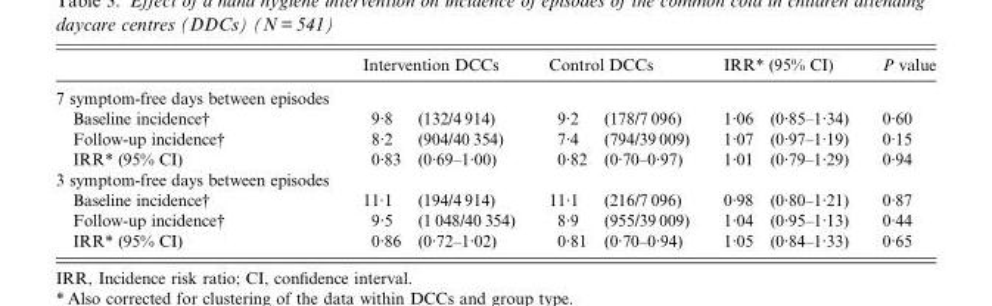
<table><thead><tr><td rowspan="2">7 symptom-free days between episodes</td><td colspan="2">Intervention DCCs</td><td colspan="2">Control DCCs</td><td colspan="2">IRR* (95% CI)</td><td rowspan="2">P value</td></tr><tr><td></td><td></td><td></td><td></td><td></td><td></td></tr></thead><tbody><tr><td>Baseline incidence†</td><td>9·8</td><td>(132/4 914)</td><td>9·2</td><td>(178/7 096)</td><td>1·06</td><td>(0·85–1·34)</td><td>0·60</td></tr><tr><td>Follow-up incidence†</td><td>8·2</td><td>(904/40 354)</td><td>7·4</td><td>(794/39 009)</td><td>1·07</td><td>(0·97–1·19)</td><td>0·15</td></tr><tr><td>IRR* (95% CI)</td><td>0·83</td><td>(0·69–1·00)</td><td>0·82</td><td>(0·70–0·97)</td><td>1·01</td><td>(0·79–1·29)</td><td>0·94</td></tr><tr><td colspan="8">3 symptom-free days between episodes</td></tr><tr><td>Baseline incidence†</td><td>11·1</td><td>(194/4 914)</td><td>11·1</td><td>(216/7 096)</td><td>0·98</td><td>(0·80–1·21)</td><td>0·87</td></tr><tr><td>Follow-up incidence†</td><td>9·5</td><td>(1 048/40 354)</td><td>8·9</td><td>(955/39 009)</td><td>1·04</td><td>(0·95–1·13)</td><td>0·44</td></tr><tr><td>IRR* (95% CI)</td><td>0·86</td><td>(0·72–1·02)</td><td>0·81</td><td>(0·70–0·94)</td><td>1·05</td><td>(0·84–1·33)</td><td>0·65</td></tr></tbody></table>